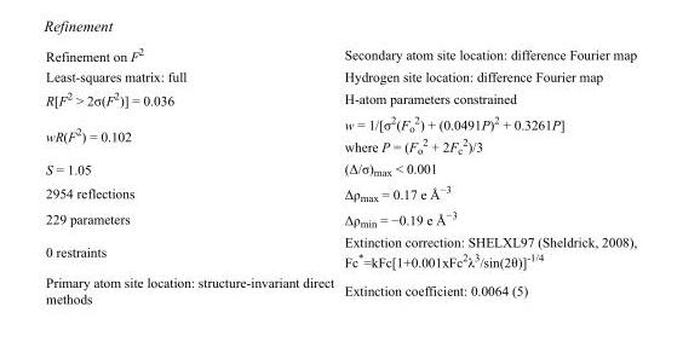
<table><tbody><tr><td>Refinement on F<sup>2</sup></td><td>Secondary atom site location: difference Fourier map</td></tr><tr><td>Least-squares matrix: full</td><td>Hydrogen site location: difference Fourier map</td></tr><tr><td>R[F<sup>2</sup> &gt; 2σ(F<sup>2</sup>)] = 0.036</td><td>H-atom parameters constrained</td></tr><tr><td>wR(F<sup>2</sup>) = 0.102</td><td>w = 1/[σ<sup>2</sup>(F<sub>o</sub> <sup>2</sup>) + (0.0491P)<sup>2</sup> + 0.3261P] where P = (F<sub>o</sub> <sup>2</sup> + 2F<sub>c</sub> <sup>2</sup>)/3</td></tr><tr><td>S = 1.05</td><td>(Δ/σ)<sub>max</sub> &lt; 0.001</td></tr><tr><td>2954 reflections</td><td>Δρ<sub>max</sub> = 0.17 e Å<sup>−3</sup></td></tr><tr><td>229 parameters</td><td>Δρmin = −0.19 e Å−3</td></tr><tr><td>0 restraints</td><td>Extinction correction: SHELXL97 (Sheldrick, 2008), Fc*=kFc[1+0.001xFc<sup>2</sup>λ<sup>3</sup>/sin(2θ)]<sup>-1/4</sup></td></tr><tr><td>Primary atom site location: structure-invariant direct methods</td><td>Extinction coefficient: 0.0064 (5)</td></tr></tbody></table>